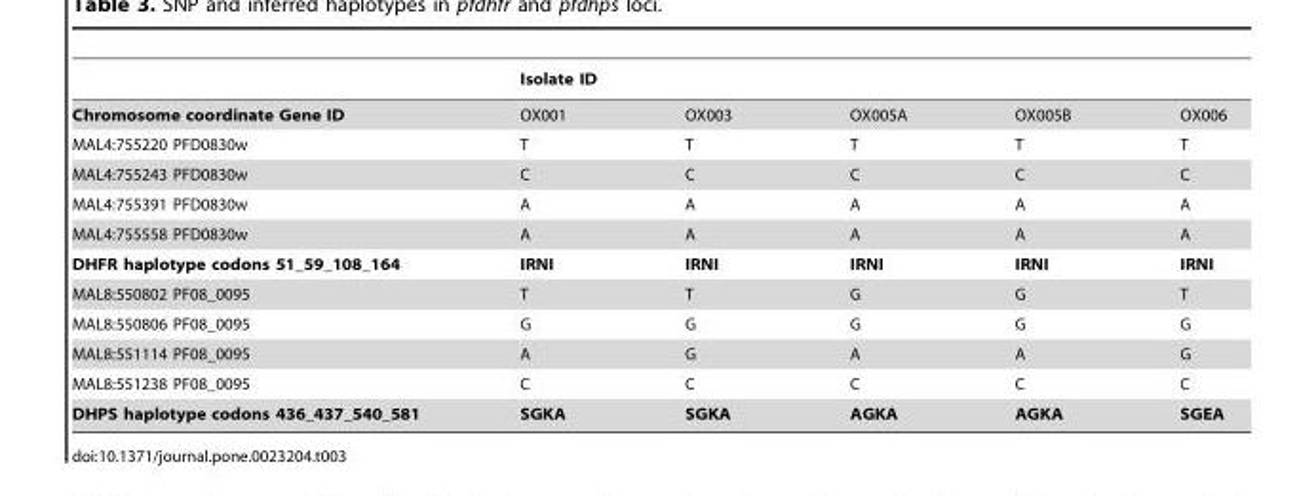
<table><thead><tr><td rowspan="2">Chromosome coordinate Gene ID</td><td colspan="5">Isolate ID</td></tr><tr><td>OX001</td><td>OX003</td><td>OX005A</td><td>OX005B</td><td>OX006</td></tr></thead><tbody><tr><td>MAL4:755220 PFD0830w</td><td>T</td><td>T</td><td>T</td><td>T</td><td>T</td></tr><tr><td>MAL4:755243 PFD0830w</td><td>C</td><td>C</td><td>C</td><td>C</td><td>C</td></tr><tr><td>MAL4:755391 PFD0830w</td><td>A</td><td>A</td><td>A</td><td>A</td><td>A</td></tr><tr><td>MAL4:755558 PFD0830w</td><td>A</td><td>A</td><td>A</td><td>A</td><td>A</td></tr><tr><td>DHFR haplotype codons 51_59_108_164</td><td>IRNI</td><td>IRNI</td><td>IRNI</td><td>IRNI</td><td>IRNI</td></tr><tr><td>MAL8:550802 PF08_0095</td><td>T</td><td>T</td><td>G</td><td>G</td><td>T</td></tr><tr><td>MAL8:550806 PF08_0095</td><td>G</td><td>G</td><td>G</td><td>G</td><td>G</td></tr><tr><td>MAL8:551114 PF08_0095</td><td>A</td><td>G</td><td>A</td><td>A</td><td>G</td></tr><tr><td>MAL8:551238 PF08_0095</td><td>C</td><td>C</td><td>C</td><td>C</td><td>C</td></tr><tr><td>DHPS haplotype codons 436_437_540_581</td><td>SGKA</td><td>SGKA</td><td>AGKA</td><td>AGKA</td><td>SGEA</td></tr></tbody></table>